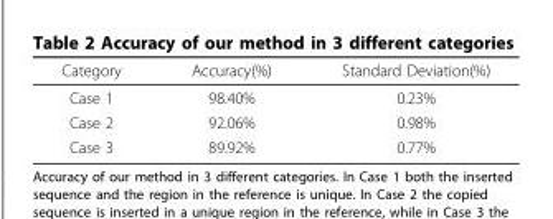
<table><thead><tr><td>Category</td><td>Accuracy(%)</td><td>Standard Deviation(%)</td></tr></thead><tbody><tr><td>Case 1</td><td>98.40%</td><td>0.23%</td></tr><tr><td>Case 2</td><td>92.06%</td><td>0.98%</td></tr><tr><td>Case 3</td><td>89.92%</td><td>0.77%</td></tr></tbody></table>